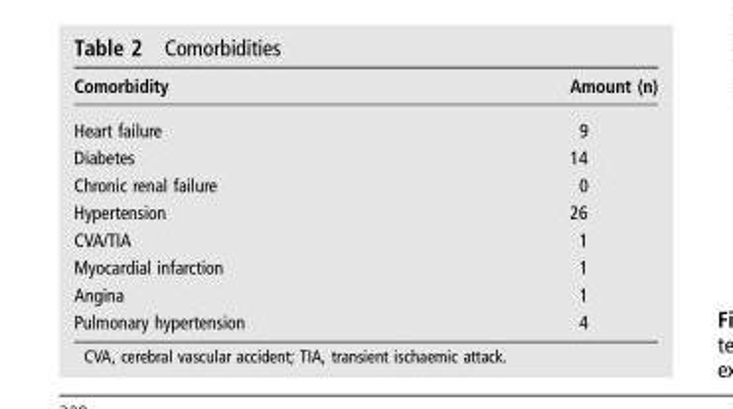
<table><thead><tr><td>Comorbidity</td><td>Amount (n)</td></tr></thead><tbody><tr><td>Heart failure</td><td>9</td></tr><tr><td>Diabetes</td><td>14</td></tr><tr><td>Chronic renal failure</td><td>0</td></tr><tr><td>Hypertension</td><td>26</td></tr><tr><td>CVA/TIA</td><td>1</td></tr><tr><td>Myocardial infarction</td><td>1</td></tr><tr><td>Angina</td><td>1</td></tr><tr><td>Pulmonary hypertension</td><td>4</td></tr></tbody></table>